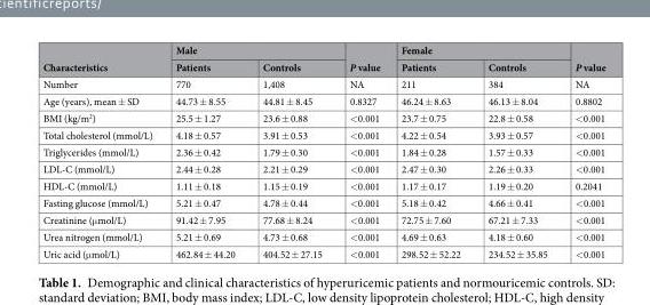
<table><thead><tr><td rowspan="2">Characteristics</td><td colspan="2">Male</td><td rowspan="2">P value</td><td colspan="2">Female</td><td rowspan="2">P value</td></tr><tr><td>Patients</td><td>Controls</td><td>Patients</td><td>Controls</td></tr></thead><tbody><tr><td>Number</td><td>770</td><td>1,408</td><td>NA</td><td>211</td><td>384</td><td>NA</td></tr><tr><td>Age (years), mean ± SD</td><td>44.73 ± 8.55</td><td>44.81 ± 8.45</td><td>0.8327</td><td>46.24 ± 8.63</td><td>46.13 ± 8.04</td><td>0.8802</td></tr><tr><td>BMI (kg/m<sup>2</sup>)</td><td>25.5 ± 1.27</td><td>23.6 ± 0.88</td><td>&lt;0.001</td><td>23.7 ± 0.75</td><td>22.8 ± 0.58</td><td>&lt;0.001</td></tr><tr><td>Total cholesterol (mmol/L)</td><td>4.18 ± 0.57</td><td>3.91 ± 0.53</td><td>&lt;0.001</td><td>4.22 ± 0.54</td><td>3.93 ± 0.57</td><td>&lt;0.001</td></tr><tr><td>Triglycerides (mmol/L)</td><td>2.36 ± 0.42</td><td>1.79 ± 0.30</td><td>&lt;0.001</td><td>1.84 ± 0.28</td><td>1.57 ± 0.33</td><td>&lt;0.001</td></tr><tr><td>LDL-C (mmol/L)</td><td>2.44 ± 0.28</td><td>2.21 ± 0.29</td><td>&lt;0.001</td><td>2.47 ± 0.30</td><td>2.26 ± 0.33</td><td>&lt;0.001</td></tr><tr><td>HDL-C (mmol/L)</td><td>1.11 ± 0.18</td><td>1.15 ± 0.19</td><td>&lt;0.001</td><td>1.17 ± 0.17</td><td>1.19 ± 0.20</td><td>0.2041</td></tr><tr><td>Fasting glucose (mmol/L)</td><td>5.21 ± 0.47</td><td>4.78 ± 0.44</td><td>&lt;0.001</td><td>5.18 ± 0.42</td><td>4.66 ± 0.41</td><td>&lt;0.001</td></tr><tr><td>Creatinine (μmol/L)</td><td>91.42 ± 7.95</td><td>77.68 ± 8.24</td><td>&lt;0.001</td><td>72.75 ± 7.60</td><td>67.21 ± 7.33</td><td>&lt;0.001</td></tr><tr><td>Urea nitrogen (mmol/L)</td><td>5.21 ± 0.69</td><td>4.73 ± 0.68</td><td>&lt;0.001</td><td>4.69 ± 0.63</td><td>4.18 ± 0.60</td><td>&lt;0.001</td></tr><tr><td>Uric acid (μmol/L)</td><td>462.84 ± 44.20</td><td>404.52 ± 27.15</td><td>&lt;0.001</td><td>298.52 ± 52.22</td><td>234.52 ± 35.85</td><td>&lt;0.001</td></tr></tbody></table>